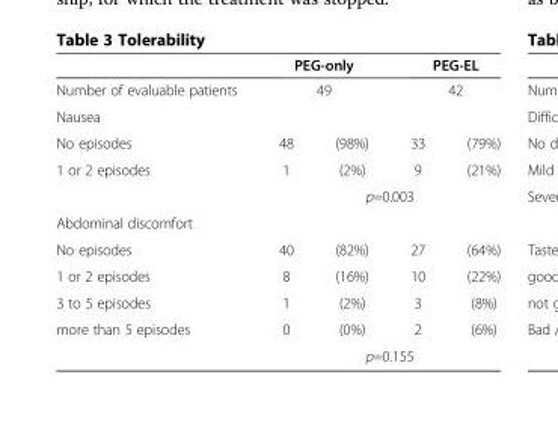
<table><thead><tr><td rowspan="4">Number of evaluable patients Nausea No episodes</td><td rowspan="3" colspan="2">PEG-only 49</td><td rowspan="3" colspan="2">PEG-EL 42</td></tr><tr></tr><tr></tr><tr><td>48</td><td>(98%)</td><td>33</td><td>(79%)</td></tr></thead><tbody><tr><td rowspan="2">1 or 2 episodes</td><td>1</td><td>(2%)</td><td>9</td><td>(21%)</td></tr><tr><td></td><td colspan="2">p=0.003</td><td></td></tr><tr><td colspan="5">Abdominal discomfort</td></tr><tr><td>No episodes</td><td>40</td><td>(82%)</td><td>27</td><td>(64%)</td></tr><tr><td>1 or 2 episodes</td><td>8</td><td>(16%)</td><td>10</td><td>(22%)</td></tr><tr><td>3 to 5 episodes</td><td>1</td><td>(2%)</td><td>3</td><td>(8%)</td></tr><tr><td rowspan="2">more than 5 episodes</td><td>0</td><td>(0%)</td><td>2</td><td>(6%)</td></tr><tr><td></td><td colspan="2">p=0.155</td><td></td></tr></tbody></table>